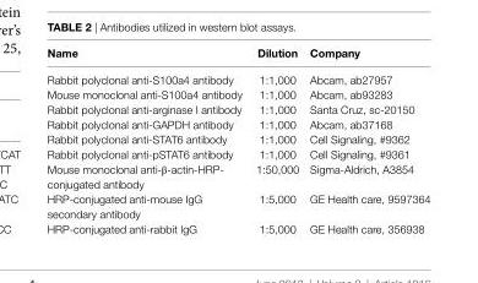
<table><thead><tr><td>name</td><td>Dilution</td><td>company</td></tr></thead><tbody><tr><td>Rabbit polyclonal anti-S100a4 antibody</td><td>1:1,000</td><td>Abcam, ab27957</td></tr><tr><td>Mouse monoclonal anti-S100a4 antibody</td><td>1:1,000</td><td>Abcam, ab93283</td></tr><tr><td>Rabbit polyclonal anti-arginase I antibody</td><td>1:1,000</td><td>Santa Cruz, sc-20150</td></tr><tr><td>Rabbit polyclonal anti-GAPDH antibody</td><td>1:1,000</td><td>Abcam, ab37168</td></tr><tr><td>Rabbit polyclonal anti-STAT6 antibody</td><td>1:1,000</td><td>Cell Signaling, #9362</td></tr><tr><td>Rabbit polyclonal anti-pSTAT6 antibody</td><td>1:1,000</td><td>Cell Signaling, #9361</td></tr><tr><td>Mouse monoclonal anti-β-actin-HRP- conjugated antibody</td><td>1:50,000</td><td>Sigma-Aldrich, A3854</td></tr><tr><td>HRP-conjugated anti-mouse IgG secondary antibody</td><td>1:5,000</td><td>GE Health care, 9597364</td></tr><tr><td>HRP-conjugated anti-rabbit IgG</td><td>1:5,000</td><td>GE Health care, 356938</td></tr></tbody></table>